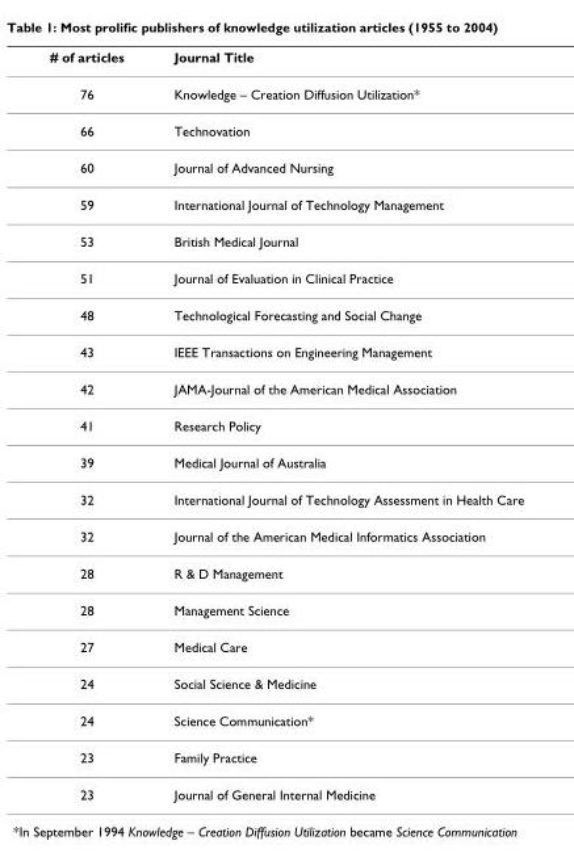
<table><thead><tr><td># of articles</td><td>Journal Title</td></tr></thead><tbody><tr><td>76</td><td>Knowledge – Creation Diffusion Utilization*</td></tr><tr><td>66</td><td>Technovation</td></tr><tr><td>60</td><td>Journal of Advanced Nursing</td></tr><tr><td>59</td><td>International Journal of Technology Management</td></tr><tr><td>53</td><td>British Medical Journal</td></tr><tr><td>51</td><td>Journal of Evaluation in Clinical Practice</td></tr><tr><td>48</td><td>Technological Forecasting and Social Change</td></tr><tr><td>43</td><td>IEEE Transactions on Engineering Management</td></tr><tr><td>42</td><td>JAMA-Journal of the American Medical Association</td></tr><tr><td>41</td><td>Research Policy</td></tr><tr><td>39</td><td>Medical Journal of Australia</td></tr><tr><td>32</td><td>International Journal of Technology Assessment in Health Care</td></tr><tr><td>32</td><td>Journal of the American Medical Informatics Association</td></tr><tr><td>28</td><td>R &amp; D Management</td></tr><tr><td>28</td><td>Management Science</td></tr><tr><td>27</td><td>Medical Care</td></tr><tr><td>24</td><td>Social Science &amp; Medicine</td></tr><tr><td>24</td><td>Science Communication*</td></tr><tr><td>23</td><td>Family Practice</td></tr><tr><td>23</td><td>Journal of General Internal Medicine</td></tr></tbody></table>